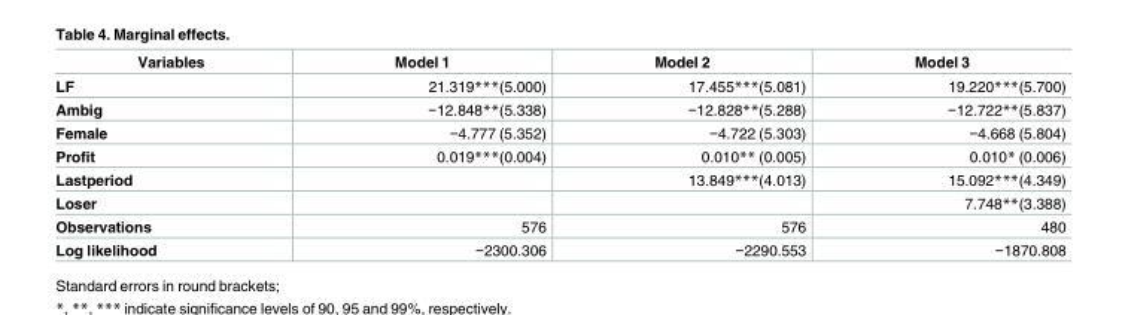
<table><thead><tr><td>Variables</td><td>Model 1</td><td>Model 2</td><td>Model 3</td></tr></thead><tbody><tr><td>LF</td><td>21.319***(5.000)</td><td>17.455***(5.081)</td><td>19.220***(5.700)</td></tr><tr><td>Ambig</td><td>−12.848**(5.338)</td><td>−12.828**(5.288)</td><td>−12.722**(5.837)</td></tr><tr><td>Female</td><td>−4.777 (5.352)</td><td>−4.722 (5.303)</td><td>−4.668 (5.804)</td></tr><tr><td>Profit</td><td>0.019***(0.004)</td><td>0.010** (0.005)</td><td>0.010* (0.006)</td></tr><tr><td>Lastperiod</td><td></td><td>13.849***(4.013)</td><td>15.092***(4.349)</td></tr><tr><td>Loser</td><td></td><td></td><td>7.748**(3.388)</td></tr><tr><td>Observations</td><td>576</td><td>576</td><td>480</td></tr><tr><td>Log likelihood</td><td>−2300.306</td><td>−2290.553</td><td>−1870.808</td></tr></tbody></table>